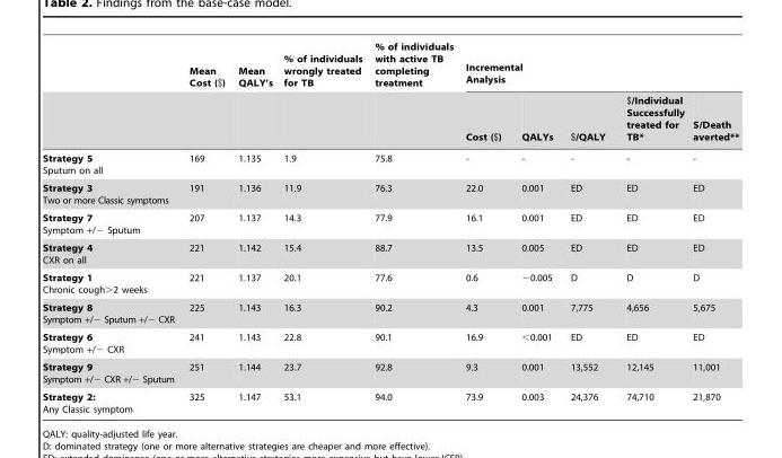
<table><thead><tr><td rowspan="2"></td><td rowspan="2">Mean Cost ($)</td><td rowspan="2">Mean QALY’s</td><td rowspan="2">% of individuals wrongly treated for TB</td><td rowspan="2">% of individuals with active TB completing treatment</td><td colspan="5">Incremental Analysis</td></tr><tr><td>Cost ($)</td><td>QALYs</td><td>$/QALY</td><td>$/Individual Successfully treated for TB*</td><td>S/Death averted**</td></tr></thead><tbody><tr><td>Strategy 5 Sputum on all</td><td>169</td><td>1.135</td><td>1.9</td><td>75.8</td><td>-</td><td>-</td><td>-</td><td>-</td><td>-</td></tr><tr><td>Strategy 3 Two or more Classic symptoms</td><td>191</td><td>1.136</td><td>11.9</td><td>76.3</td><td>22.0</td><td>0.001</td><td>ED</td><td>ED</td><td>ED</td></tr><tr><td>Strategy 7 Symptom +/− Sputum</td><td>207</td><td>1.137</td><td>14.3</td><td>77.9</td><td>16.1</td><td>0.001</td><td>ED</td><td>ED</td><td>ED</td></tr><tr><td>Strategy 4 CXR on all</td><td>221</td><td>1.142</td><td>15.4</td><td>88.7</td><td>13.5</td><td>0.005</td><td>ED</td><td>ED</td><td>ED</td></tr><tr><td>Strategy 1 Chronic cough&gt;2 weeks</td><td>221</td><td>1.137</td><td>20.1</td><td>77.6</td><td>0.6</td><td>−0.005</td><td>D</td><td>D</td><td>D</td></tr><tr><td>Strategy 8 Symptom +/− Sputum +/− CXR</td><td>225</td><td>1.143</td><td>16.3</td><td>90.2</td><td>4.3</td><td>0.001</td><td>7,775</td><td>4,656</td><td>5,675</td></tr><tr><td>Strategy 6 Symptom +/− CXR</td><td>241</td><td>1.143</td><td>22.8</td><td>90.1</td><td>16.9</td><td>&lt;0.001</td><td>ED</td><td>ED</td><td>ED</td></tr><tr><td>Strategy 9 Symptom +/− CXR +/− Sputum</td><td>251</td><td>1.144</td><td>23.7</td><td>92.8</td><td>9.3</td><td>0.001</td><td>13,552</td><td>12,145</td><td>11,001</td></tr><tr><td>Strategy 2: Any Classic symptom</td><td>325</td><td>1.147</td><td>53.1</td><td>94.0</td><td>73.9</td><td>0.003</td><td>24,376</td><td>74,710</td><td>21,870</td></tr></tbody></table>